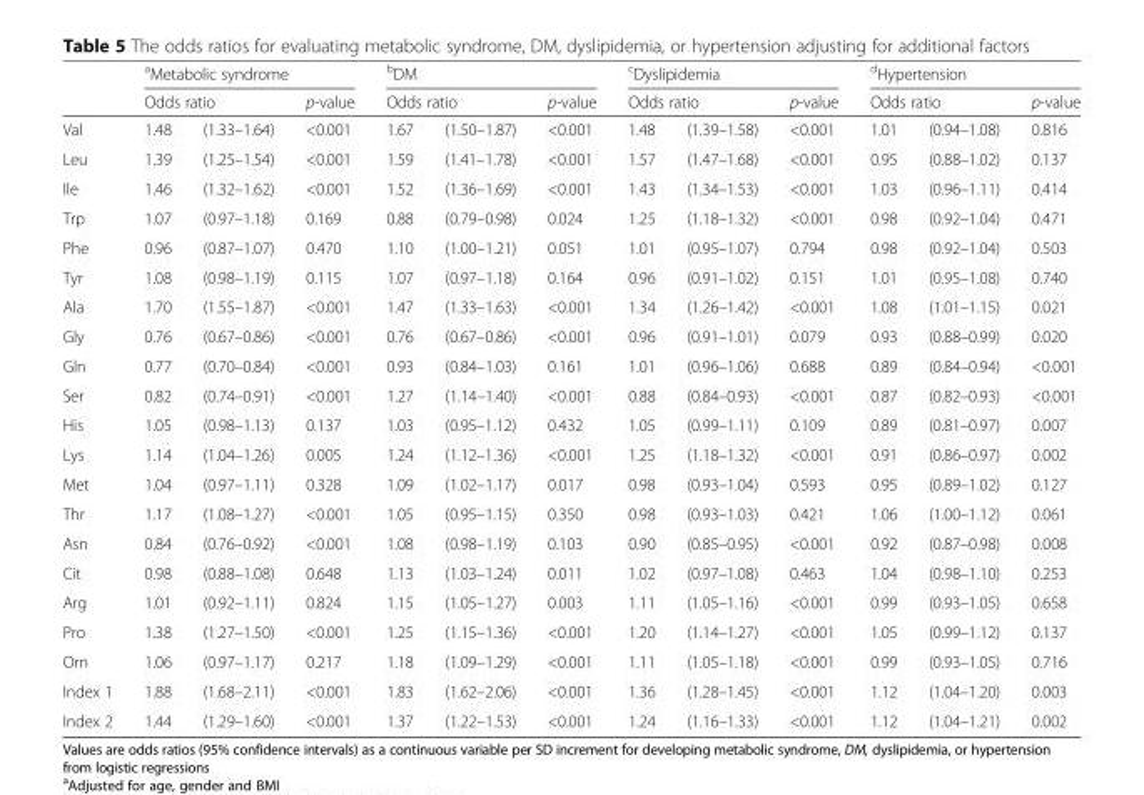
<table><thead><tr><td rowspan="3">Val</td><td colspan="3"><sup>a</sup>Metabolic syndrome</td><td colspan="3"><sup>b</sup>DM</td><td colspan="3"><sup>c</sup>Dyslipidemia</td><td colspan="3"><sup>d</sup>Hypertension</td></tr><tr><td colspan="2">Odds ratio</td><td rowspan="2">p-value &lt;0.001</td><td colspan="2">Odds ratio</td><td rowspan="2">p-value &lt;0.001</td><td colspan="2">Odds ratio</td><td rowspan="2">p-value &lt;0.001</td><td colspan="2">Odds ratio</td><td rowspan="2">p-value 0.816</td></tr><tr><td>1.48</td><td>(1.33–1.64)</td><td>1.67</td><td>(1.50–1.87)</td><td>1.48</td><td>(1.39–1.58)</td><td>1.01</td><td>(0.94–1.08)</td></tr></thead><tbody><tr><td>Leu</td><td>1.39</td><td>(1.25–1.54)</td><td>&lt;0.001</td><td>1.59</td><td>(1.41–1.78)</td><td>&lt;0.001</td><td>1.57</td><td>(1.47–1.68)</td><td>&lt;0.001</td><td>0.95</td><td>(0.88–1.02)</td><td>0.137</td></tr><tr><td>Ile</td><td>1.46</td><td>(1.32–1.62)</td><td>&lt;0.001</td><td>1.52</td><td>(1.36–1.69)</td><td>&lt;0.001</td><td>1.43</td><td>(1.34–1.53)</td><td>&lt;0.001</td><td>1.03</td><td>(0.96–1.11)</td><td>0.414</td></tr><tr><td>Trp</td><td>1.07</td><td>(0.97–1.18)</td><td>0.169</td><td>0.88</td><td>(0.79–0.98)</td><td>0.024</td><td>1.25</td><td>(1.18–1.32)</td><td>&lt;0.001</td><td>0.98</td><td>(0.92–1.04)</td><td>0.471</td></tr><tr><td>Phe</td><td>0.96</td><td>(0.87–1.07)</td><td>0.470</td><td>1.10</td><td>(1.00–1.21)</td><td>0.051</td><td>1.01</td><td>(0.95–1.07)</td><td>0.794</td><td>0.98</td><td>(0.92–1.04)</td><td>0.503</td></tr><tr><td>Tyr</td><td>1.08</td><td>(0.98–1.19)</td><td>0.115</td><td>1.07</td><td>(0.97–1.18)</td><td>0.164</td><td>0.96</td><td>(0.91–1.02)</td><td>0.151</td><td>1.01</td><td>(0.95–1.08)</td><td>0.740</td></tr><tr><td>Ala</td><td>1.70</td><td>(1.55–1.87)</td><td>&lt;0.001</td><td>1.47</td><td>(1.33–1.63)</td><td>&lt;0.001</td><td>1.34</td><td>(1.26–1.42)</td><td>&lt;0.001</td><td>1.08</td><td>(1.01–1.15)</td><td>0.021</td></tr><tr><td>Gly</td><td>0.76</td><td>(0.67–0.86)</td><td>&lt;0.001</td><td>0.76</td><td>(0.67–0.86)</td><td>&lt;0.001</td><td>0.96</td><td>(0.91–1.01)</td><td>0.079</td><td>0.93</td><td>(0.88–0.99)</td><td>0.020</td></tr><tr><td>Gln</td><td>0.77</td><td>(0.70–0.84)</td><td>&lt;0.001</td><td>0.93</td><td>(0.84–1.03)</td><td>0.161</td><td>1.01</td><td>(0.96–1.06)</td><td>0.688</td><td>0.89</td><td>(0.84–0.94)</td><td>&lt;0.001</td></tr><tr><td>Ser</td><td>0.82</td><td>(0.74–0.91)</td><td>&lt;0.001</td><td>1.27</td><td>(1.14–1.40)</td><td>&lt;0.001</td><td>0.88</td><td>(0.84–0.93)</td><td>&lt;0.001</td><td>0.87</td><td>(0.82–0.93)</td><td>&lt;0.001</td></tr><tr><td>His</td><td>1.05</td><td>(0.98–1.13)</td><td>0.137</td><td>1.03</td><td>(0.95–1.12)</td><td>0.432</td><td>1.05</td><td>(0.99–1.11)</td><td>0.109</td><td>0.89</td><td>(0.81–0.97)</td><td>0.007</td></tr><tr><td>Lys</td><td>1.14</td><td>(1.04–1.26)</td><td>0.005</td><td>1.24</td><td>(1.12–1.36)</td><td>&lt;0.001</td><td>1.25</td><td>(1.18–1.32)</td><td>&lt;0.001</td><td>0.91</td><td>(0.86–0.97)</td><td>0.002</td></tr><tr><td>Met</td><td>1.04</td><td>(0.97–1.11)</td><td>0.328</td><td>1.09</td><td>(1.02–1.17)</td><td>0.017</td><td>0.98</td><td>(0.93–1.04)</td><td>0.593</td><td>0.95</td><td>(0.89–1.02)</td><td>0.127</td></tr><tr><td>Thr</td><td>1.17</td><td>(1.08–1.27)</td><td>&lt;0.001</td><td>1.05</td><td>(0.95–1.15)</td><td>0.350</td><td>0.98</td><td>(0.93–1.03)</td><td>0.421</td><td>1.06</td><td>(1.00–1.12)</td><td>0.061</td></tr><tr><td>Asn</td><td>0.84</td><td>(0.76–0.92)</td><td>&lt;0.001</td><td>1.08</td><td>(0.98–1.19)</td><td>0.103</td><td>0.90</td><td>(0.85–0.95)</td><td>&lt;0.001</td><td>0.92</td><td>(0.87–0.98)</td><td>0.008</td></tr><tr><td>Cit</td><td>0.98</td><td>(0.88–1.08)</td><td>0.648</td><td>1.13</td><td>(1.03–1.24)</td><td>0.011</td><td>1.02</td><td>(0.97–1.08)</td><td>0.463</td><td>1.04</td><td>(0.98–1.10)</td><td>0.253</td></tr><tr><td>Arg</td><td>1.01</td><td>(0.92–1.11)</td><td>0.824</td><td>1.15</td><td>(1.05–1.27)</td><td>0.003</td><td>1.11</td><td>(1.05–1.16)</td><td>&lt;0.001</td><td>0.99</td><td>(0.93–1.05)</td><td>0.658</td></tr><tr><td>Pro</td><td>1.38</td><td>(1.27–1.50)</td><td>&lt;0.001</td><td>1.25</td><td>(1.15–1.36)</td><td>&lt;0.001</td><td>1.20</td><td>(1.14–1.27)</td><td>&lt;0.001</td><td>1.05</td><td>(0.99–1.12)</td><td>0.137</td></tr><tr><td>Orn</td><td>1.06</td><td>(0.97–1.17)</td><td>0.217</td><td>1.18</td><td>(1.09–1.29)</td><td>&lt;0.001</td><td>1.11</td><td>(1.05–1.18)</td><td>&lt;0.001</td><td>0.99</td><td>(0.93–1.05)</td><td>0.716</td></tr><tr><td>Index 1</td><td>1.88</td><td>(1.68–2.11)</td><td>&lt;0.001</td><td>1.83</td><td>(1.62–2.06)</td><td>&lt;0.001</td><td>1.36</td><td>(1.28–1.45)</td><td>&lt;0.001</td><td>1.12</td><td>(1.04–1.20)</td><td>0.003</td></tr><tr><td>Index 2</td><td>1.44</td><td>(1.29–1.60)</td><td>&lt;0.001</td><td>1.37</td><td>(1.22–1.53)</td><td>&lt;0.001</td><td>1.24</td><td>(1.16–1.33)</td><td>&lt;0.001</td><td>1.12</td><td>(1.04–1.21)</td><td>0.002</td></tr></tbody></table>